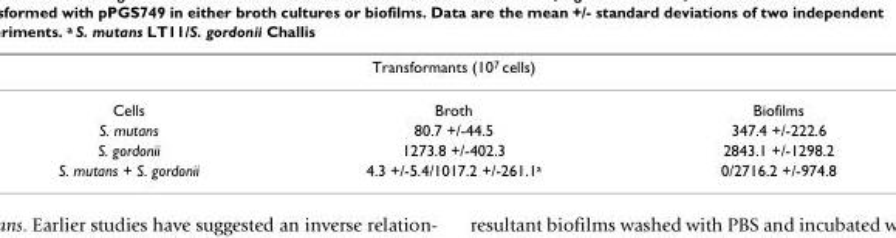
<table><thead><tr><td></td><td>Transformants (107 cells)</td><td></td></tr></thead><tbody><tr><td>Cells</td><td>Broth</td><td>Biofilms</td></tr><tr><td>S. mutans</td><td>80.7 +/-44.5</td><td>347.4 +/-222.6</td></tr><tr><td>S. gordonii</td><td>1273.8 +/-402.3</td><td>2843.1 +/-1298.2</td></tr><tr><td>S. mutans + S. gordonii</td><td>4.3 +/-5.4/1017.2 +/-261.1a</td><td>0/2716.2 +/-974.8</td></tr></tbody></table>